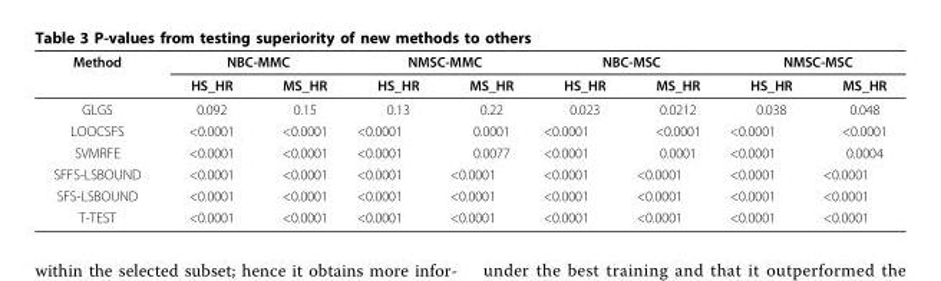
<table><thead><tr><td rowspan="2">Method</td><td colspan="2">NBC-MMC</td><td colspan="2">NMSC-MMC</td><td colspan="2">NBC-MSC</td><td colspan="2">NMSC-MSC</td></tr><tr><td>HS_HR</td><td>MS_HR</td><td>HS_HR</td><td>MS_HR</td><td>HS_HR</td><td>MS_HR</td><td>HS_HR</td><td>MS_HR</td></tr></thead><tbody><tr><td>GLGS</td><td>0.092</td><td>0.15</td><td>0.13</td><td>0.22</td><td>0.023</td><td>0.0212</td><td>0.038</td><td>0.048</td></tr><tr><td>LOOCSFS</td><td>&lt;0.0001</td><td>&lt;0.0001</td><td>&lt;0.0001</td><td>0.0001</td><td>&lt;0.0001</td><td>&lt;0.0001</td><td>&lt;0.0001</td><td>&lt;0.0001</td></tr><tr><td>SVMRFE</td><td>&lt;0.0001</td><td>&lt;0.0001</td><td>&lt;0.0001</td><td>0.0077</td><td>&lt;0.0001</td><td>0.0001</td><td>&lt;0.0001</td><td>0.0004</td></tr><tr><td>SFFS-LSBOUND</td><td>&lt;0.0001</td><td>&lt;0.0001</td><td>&lt;0.0001</td><td>&lt;0.0001</td><td>&lt;0.0001</td><td>&lt;0.0001</td><td>&lt;0.0001</td><td>&lt;0.0001</td></tr><tr><td>SFS-LSBOUND</td><td>&lt;0.0001</td><td>&lt;0.0001</td><td>&lt;0.0001</td><td>&lt;0.0001</td><td>&lt;0.0001</td><td>&lt;0.0001</td><td>&lt;0.0001</td><td>&lt;0.0001</td></tr><tr><td>T-TEST</td><td>&lt;0.0001</td><td>&lt;0.0001</td><td>&lt;0.0001</td><td>&lt;0.0001</td><td>&lt;0.0001</td><td>&lt;0.0001</td><td>&lt;0.0001</td><td>&lt;0.0001</td></tr></tbody></table>